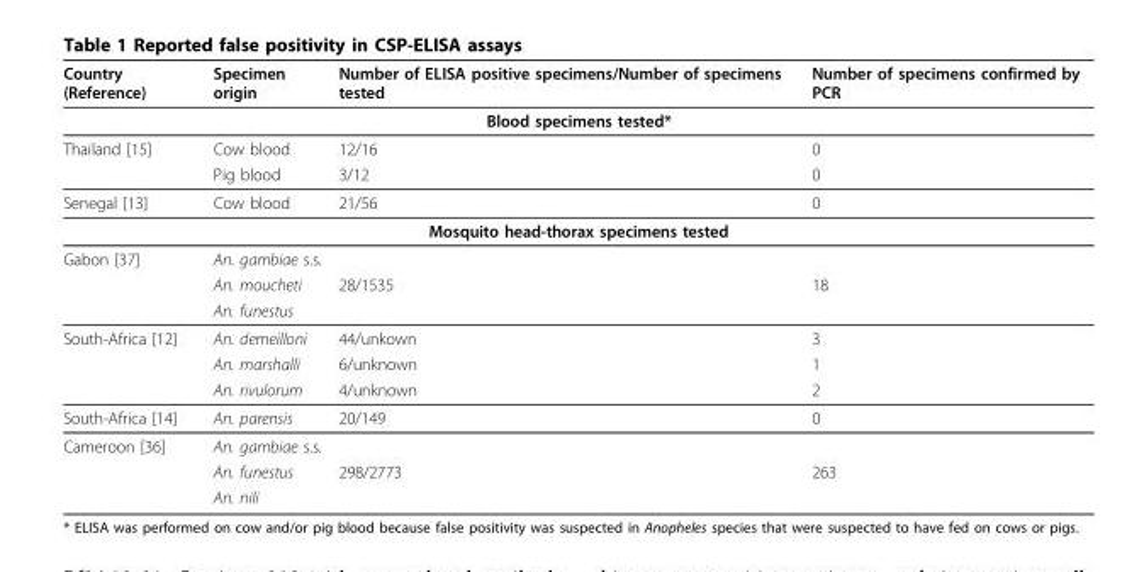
<table><thead><tr><td>Country (Reference)</td><td>Specimen origin</td><td>Number of ELISA positive specimens/Number of specimens tested</td><td>Number of specimens confirmed by PCR</td></tr></thead><tbody><tr><td colspan="4">Blood specimens tested*</td></tr><tr><td rowspan="2">Thailand [15]</td><td>Cow blood</td><td>12/16</td><td>0</td></tr><tr><td>Pig blood</td><td>3/12</td><td>0</td></tr><tr><td>Senegal [13]</td><td>Cow blood</td><td>21/56</td><td>0</td></tr><tr><td colspan="4">Mosquito head-thorax specimens tested</td></tr><tr><td rowspan="3">Gabon [37]</td><td>An. gambiae s.s.</td><td></td><td></td></tr><tr><td>An. moucheti</td><td>28/1535</td><td>18</td></tr><tr><td>An. funestus</td><td></td><td></td></tr><tr><td rowspan="3">South-Africa [12]</td><td>An. demeilloni</td><td>44/unkown</td><td>3</td></tr><tr><td>An. marshalli</td><td>6/unknown</td><td>1</td></tr><tr><td>An. rivulorum</td><td>4/unknown</td><td>2</td></tr><tr><td>South-Africa [14]</td><td>An. parensis</td><td>20/149</td><td>0</td></tr><tr><td rowspan="3">Cameroon [36]</td><td>An. gambiae s.s.</td><td></td><td></td></tr><tr><td>An. funestus</td><td>298/2773</td><td>263</td></tr><tr><td>An. nili</td><td></td><td></td></tr></tbody></table>